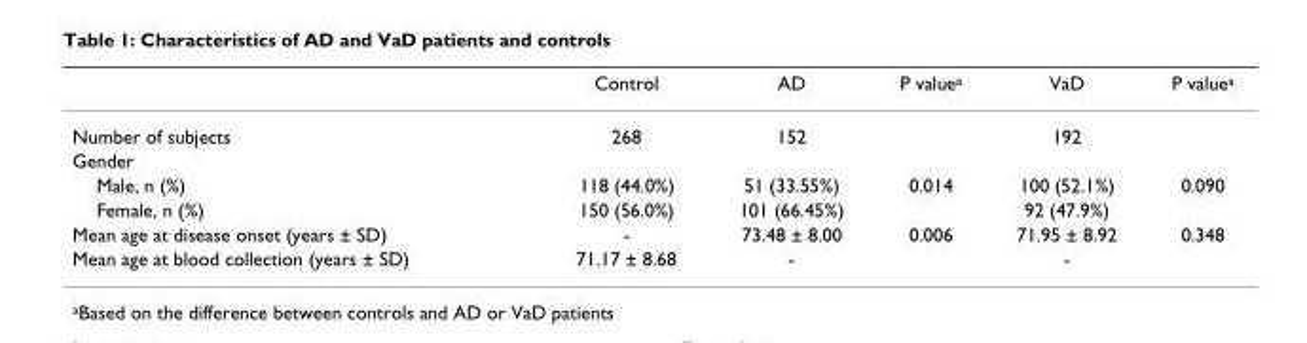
<table><thead><tr><td></td><td>Control</td><td>AD</td><td>P value<sup>a</sup></td><td>VaD</td><td>P value<sup>a</sup></td></tr></thead><tbody><tr><td>Number of subjects</td><td>268</td><td>152</td><td></td><td>192</td><td></td></tr><tr><td colspan="6">Gender</td></tr><tr><td>Male, n (%)</td><td>118 (44.0%)</td><td>51 (33.55%)</td><td>0.014</td><td>100 (52.1%)</td><td>0.090</td></tr><tr><td>Female, n (%)</td><td>150 (56.0%)</td><td>101 (66.45%)</td><td></td><td>92 (47.9%)</td><td></td></tr><tr><td>Mean age at disease onset (years ± SD)</td><td>-</td><td>73.48 ± 8.00</td><td>0.006</td><td>71.95 ± 8.92</td><td>0.348</td></tr><tr><td>Mean age at blood collection (years ± SD)</td><td>71.17 ± 8.68</td><td>-</td><td></td><td>-</td><td></td></tr></tbody></table>